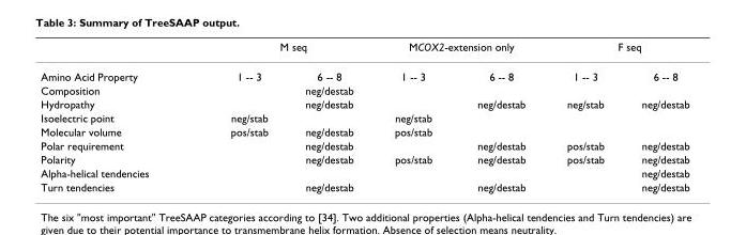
<table><thead><tr><td rowspan="2">Amino Acid Property</td><td colspan="2">M seq</td><td colspan="2">MCOX2-extension only</td><td colspan="2">F seq</td></tr><tr><td>1 -- 3</td><td>6 -- 8</td><td>1 -- 3</td><td>6 -- 8</td><td>1 -- 3</td><td>6 -- 8</td></tr></thead><tbody><tr><td>Composition</td><td></td><td>neg/destab</td><td></td><td></td><td></td><td></td></tr><tr><td>Hydropathy</td><td></td><td>neg/destab</td><td></td><td>neg/destab</td><td>neg/stab</td><td>neg/destab</td></tr><tr><td>Isoelectric point</td><td>neg/stab</td><td></td><td>neg/stab</td><td></td><td></td><td></td></tr><tr><td>Molecular volume</td><td>pos/stab</td><td>neg/destab</td><td>pos/stab</td><td></td><td></td><td></td></tr><tr><td>Polar requirement</td><td></td><td>neg/destab</td><td></td><td>neg/destab</td><td>pos/stab</td><td>neg/destab</td></tr><tr><td>Polarity</td><td></td><td>neg/destab</td><td>pos/stab</td><td>neg/destab</td><td>pos/stab</td><td>neg/destab</td></tr><tr><td>Alpha-helical tendencies</td><td></td><td></td><td></td><td></td><td></td><td>neg/destab</td></tr><tr><td>Turn tendencies</td><td></td><td>neg/destab</td><td></td><td>neg/destab</td><td></td><td>neg/destab</td></tr></tbody></table>